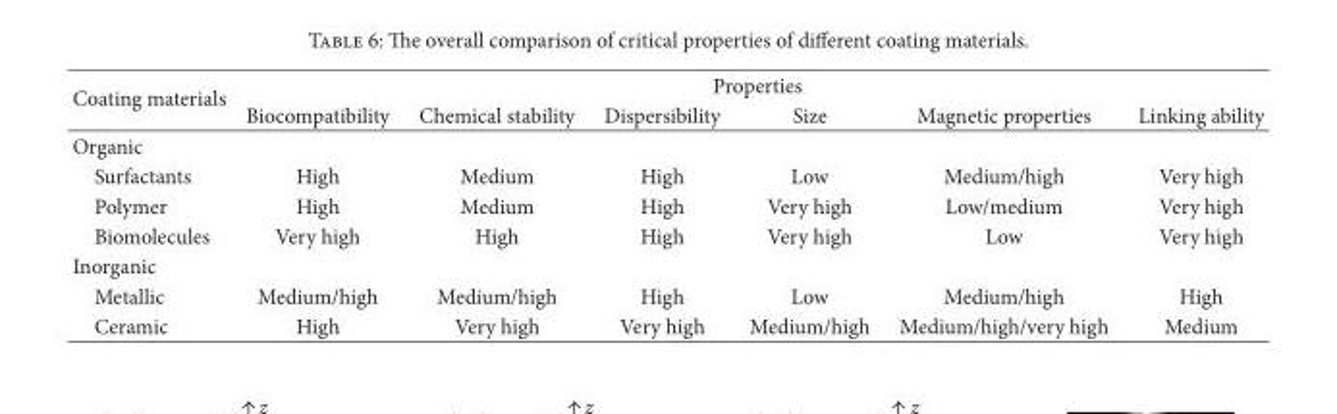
<table><thead><tr><td rowspan="2">Coating materials</td><td colspan="6">Properties</td></tr><tr><td>Biocompatibility</td><td>Chemical stability</td><td>Dispersibility</td><td>Size</td><td>Magnetic properties</td><td>Linking ability</td></tr></thead><tbody><tr><td colspan="7">Organic</td></tr><tr><td>Surfactants</td><td>High</td><td>Medium</td><td>High</td><td>Low</td><td>Medium/high</td><td>Very high</td></tr><tr><td>Polymer</td><td>High</td><td>Medium</td><td>High</td><td>Very high</td><td>Low/medium</td><td>Very high</td></tr><tr><td>Biomolecules</td><td>Very high</td><td>High</td><td>High</td><td>Very high</td><td>Low</td><td>Very high</td></tr><tr><td colspan="7">Inorganic</td></tr><tr><td>Metallic</td><td>Medium/high</td><td>Medium/high</td><td>High</td><td>Low</td><td>Medium/high</td><td>High</td></tr><tr><td>Ceramic</td><td>High</td><td>Very high</td><td>Very high</td><td>Medium/high</td><td>Medium/high/very high</td><td>Medium</td></tr></tbody></table>